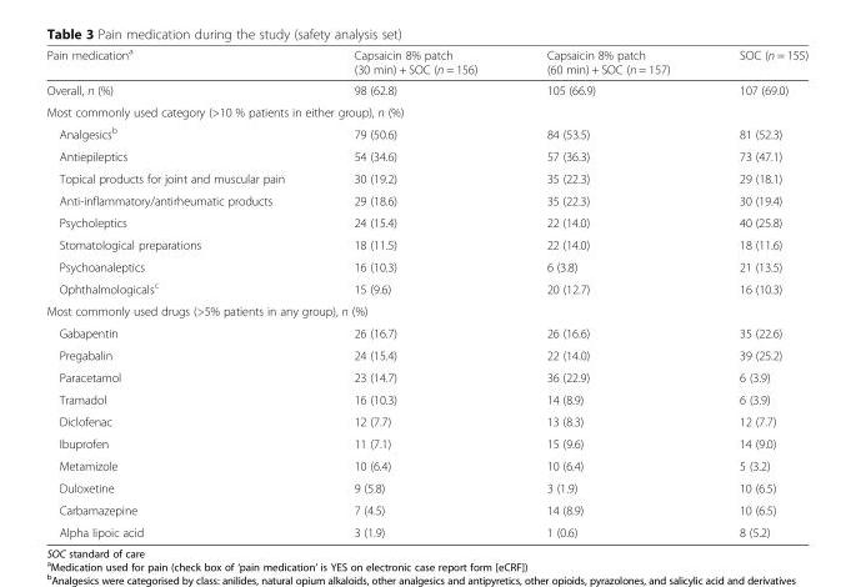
<table><thead><tr><td>Pain medication<sup>a</sup></td><td>Capsaicin 8% patch (30 min) + SOC (n = 156)</td><td>Capsaicin 8% patch (60 min) + SOC (n = 157)</td><td>SOC (n = 155)</td></tr></thead><tbody><tr><td>Overall, n (%)</td><td>98 (62.8)</td><td>105 (66.9)</td><td>107 (69.0)</td></tr><tr><td colspan="4">Most commonly used category (&gt;10 % patients in either group), n (%)</td></tr><tr><td>Analgesics<sup>b</sup></td><td>79 (50.6)</td><td>84 (53.5)</td><td>81 (52.3)</td></tr><tr><td>Antiepileptics</td><td>54 (34.6)</td><td>57 (36.3)</td><td>73 (47.1)</td></tr><tr><td>Topical products for joint and muscular pain</td><td>30 (19.2)</td><td>35 (22.3)</td><td>29 (18.1)</td></tr><tr><td>Anti-inflammatory/antirheumatic products</td><td>29 (18.6)</td><td>35 (22.3)</td><td>30 (19.4)</td></tr><tr><td>Psycholeptics</td><td>24 (15.4)</td><td>22 (14.0)</td><td>40 (25.8)</td></tr><tr><td>Stomatological preparations</td><td>18 (11.5)</td><td>22 (14.0)</td><td>18 (11.6)</td></tr><tr><td>Psychoanaleptics</td><td>16 (10.3)</td><td>6 (3.8)</td><td>21 (13.5)</td></tr><tr><td>Ophthalmologicals<sup>c</sup></td><td>15 (9.6)</td><td>20 (12.7)</td><td>16 (10.3)</td></tr><tr><td colspan="4">Most commonly used drugs (&gt;5% patients in any group), n (%)</td></tr><tr><td>Gabapentin</td><td>26 (16.7)</td><td>26 (16.6)</td><td>35 (22.6)</td></tr><tr><td>Pregabalin</td><td>24 (15.4)</td><td>22 (14.0)</td><td>39 (25.2)</td></tr><tr><td>Paracetamol</td><td>23 (14.7)</td><td>36 (22.9)</td><td>6 (3.9)</td></tr><tr><td>Tramadol</td><td>16 (10.3)</td><td>14 (8.9)</td><td>6 (3.9)</td></tr><tr><td>Diclofenac</td><td>12 (7.7)</td><td>13 (8.3)</td><td>12 (7.7)</td></tr><tr><td>Ibuprofen</td><td>11 (7.1)</td><td>15 (9.6)</td><td>14 (9.0)</td></tr><tr><td>Metamizole</td><td>10 (6.4)</td><td>10 (6.4)</td><td>5 (3.2)</td></tr><tr><td>Duloxetine</td><td>9 (5.8)</td><td>3 (1.9)</td><td>10 (6.5)</td></tr><tr><td>Carbamazepine</td><td>7 (4.5)</td><td>14 (8.9)</td><td>10 (6.5)</td></tr><tr><td>Alpha lipoic acid</td><td>3 (1.9)</td><td>1 (0.6)</td><td>8 (5.2)</td></tr></tbody></table>